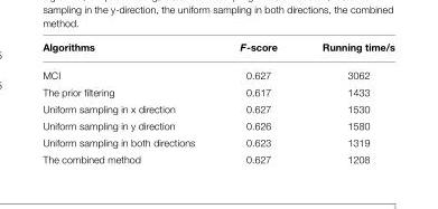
<table><thead><tr><td>Algorithms</td><td>F-score</td><td>Running time/s</td></tr></thead><tbody><tr><td>MCI</td><td>0.627</td><td>3062</td></tr><tr><td>The prior filtering</td><td>0.617</td><td>1433</td></tr><tr><td>Uniform sampling in x direction</td><td>0.627</td><td>1530</td></tr><tr><td>Uniform sampling in y direction</td><td>0.626</td><td>1580</td></tr><tr><td>Uniform sampling in both directions</td><td>0.623</td><td>1319</td></tr><tr><td>The combined method</td><td>0.627</td><td>1208</td></tr></tbody></table>